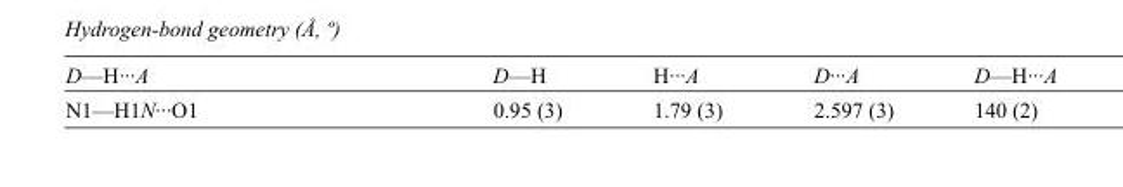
<table><tbody><tr><td>D—H···A</td><td>D—H</td><td>H···A</td><td>D···A</td><td>D—H···A</td></tr><tr><td>N1—H1N···O1</td><td>0.95 (3)</td><td>1.79 (3)</td><td>2.597 (3)</td><td>140 (2)</td></tr></tbody></table>